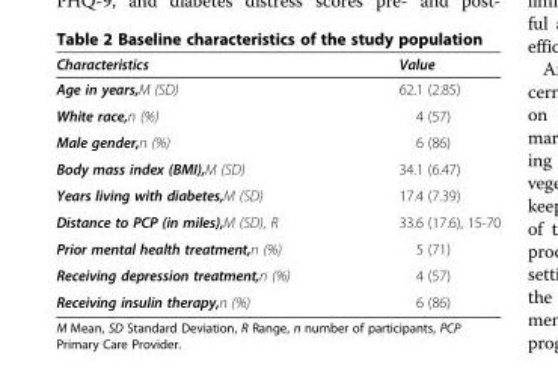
<table><thead><tr><td>Characteristics</td><td>Value</td></tr></thead><tbody><tr><td>Age in years,M (SD)</td><td>62.1 (2.85)</td></tr><tr><td>White race,n (%)</td><td>4 (57)</td></tr><tr><td>Male gender,n (%)</td><td>6 (86)</td></tr><tr><td>Body mass index (BMI),M (SD)</td><td>34.1 (6.47)</td></tr><tr><td>Years living with diabetes,M (SD)</td><td>17.4 (7.39)</td></tr><tr><td>Distance to PCP (in miles),M (SD), R</td><td>33.6 (17.6), 15-70</td></tr><tr><td>Prior mental health treatment,n (%)</td><td>5 (71)</td></tr><tr><td>Receiving depression treatment,n (%)</td><td>4 (57)</td></tr><tr><td>Receiving insulin therapy,n (%)</td><td>6 (86)</td></tr></tbody></table>